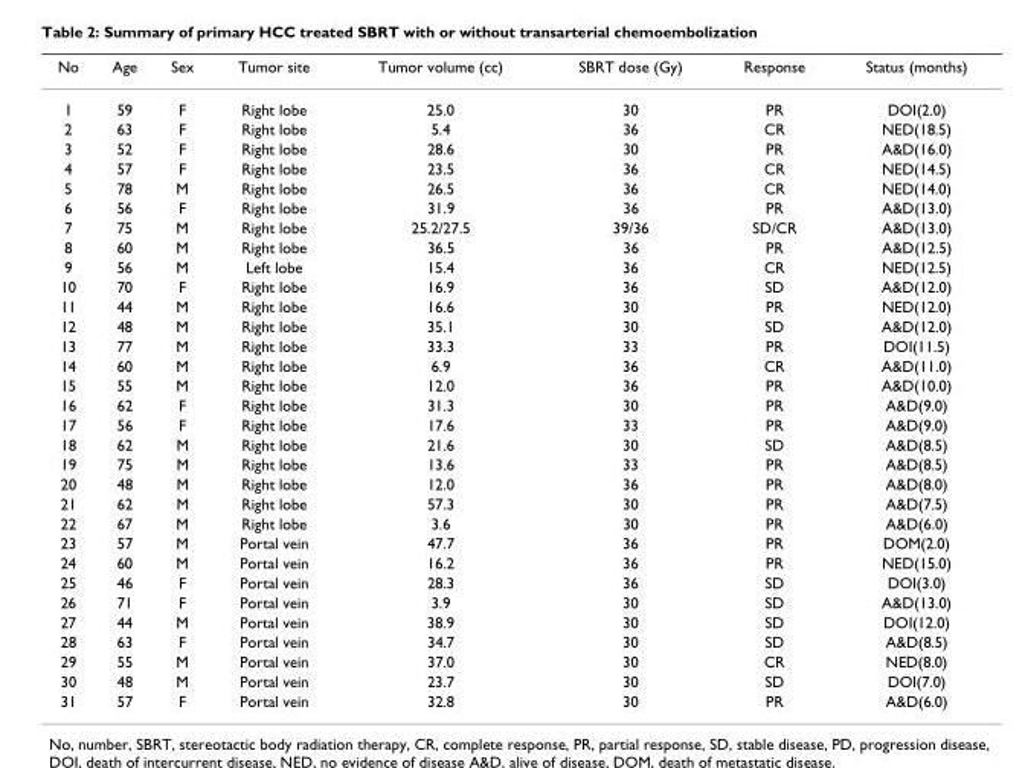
<table><thead><tr><td>No</td><td>Age</td><td>Sex</td><td>Tumor site</td><td>Tumor volume (cc)</td><td>SBRT dose (Gy)</td><td>Response</td><td>Status (months)</td></tr></thead><tbody><tr><td>1</td><td>59</td><td>F</td><td>Right lobe</td><td>25.0</td><td>30</td><td>PR</td><td>DOI(2.0)</td></tr><tr><td>2</td><td>63</td><td>F</td><td>Right lobe</td><td>5.4</td><td>36</td><td>CR</td><td>NED(18.5)</td></tr><tr><td>3</td><td>52</td><td>F</td><td>Right lobe</td><td>28.6</td><td>30</td><td>PR</td><td>A&amp;D(16.0)</td></tr><tr><td>4</td><td>57</td><td>F</td><td>Right lobe</td><td>23.5</td><td>36</td><td>CR</td><td>NED(14.5)</td></tr><tr><td>5</td><td>78</td><td>M</td><td>Right lobe</td><td>26.5</td><td>36</td><td>CR</td><td>NED(14.0)</td></tr><tr><td>6</td><td>56</td><td>F</td><td>Right lobe</td><td>31.9</td><td>36</td><td>PR</td><td>A&amp;D(13.0)</td></tr><tr><td>7</td><td>75</td><td>M</td><td>Right lobe</td><td>25.2/27.5</td><td>39/36</td><td>SD/CR</td><td>A&amp;D(13.0)</td></tr><tr><td>8</td><td>60</td><td>M</td><td>Right lobe</td><td>36.5</td><td>36</td><td>PR</td><td>A&amp;D(12.5)</td></tr><tr><td>9</td><td>56</td><td>M</td><td>Left lobe</td><td>15.4</td><td>36</td><td>CR</td><td>NED(12.5)</td></tr><tr><td>10</td><td>70</td><td>F</td><td>Right lobe</td><td>16.9</td><td>36</td><td>SD</td><td>A&amp;D(12.0)</td></tr><tr><td>11</td><td>44</td><td>M</td><td>Right lobe</td><td>16.6</td><td>30</td><td>PR</td><td>NED(12.0)</td></tr><tr><td>12</td><td>48</td><td>M</td><td>Right lobe</td><td>35.1</td><td>30</td><td>SD</td><td>A&amp;D(12.0)</td></tr><tr><td>13</td><td>77</td><td>M</td><td>Right lobe</td><td>33.3</td><td>33</td><td>PR</td><td>DOI(11.5)</td></tr><tr><td>14</td><td>60</td><td>M</td><td>Right lobe</td><td>6.9</td><td>36</td><td>CR</td><td>A&amp;D(11.0)</td></tr><tr><td>15</td><td>55</td><td>M</td><td>Right lobe</td><td>12.0</td><td>36</td><td>PR</td><td>A&amp;D(10.0)</td></tr><tr><td>16</td><td>62</td><td>F</td><td>Right lobe</td><td>31.3</td><td>30</td><td>PR</td><td>A&amp;D(9.0)</td></tr><tr><td>17</td><td>56</td><td>F</td><td>Right lobe</td><td>17.6</td><td>33</td><td>PR</td><td>A&amp;D(9.0)</td></tr><tr><td>18</td><td>62</td><td>M</td><td>Right lobe</td><td>21.6</td><td>30</td><td>SD</td><td>A&amp;D(8.5)</td></tr><tr><td>19</td><td>75</td><td>M</td><td>Right lobe</td><td>13.6</td><td>33</td><td>PR</td><td>A&amp;D(8.5)</td></tr><tr><td>20</td><td>48</td><td>M</td><td>Right lobe</td><td>12.0</td><td>36</td><td>PR</td><td>A&amp;D(8.0)</td></tr><tr><td>21</td><td>62</td><td>M</td><td>Right lobe</td><td>57.3</td><td>30</td><td>PR</td><td>A&amp;D(7.5)</td></tr><tr><td>22</td><td>67</td><td>M</td><td>Right lobe</td><td>3.6</td><td>30</td><td>PR</td><td>A&amp;D(6.0)</td></tr><tr><td>23</td><td>57</td><td>M</td><td>Portal vein</td><td>47.7</td><td>36</td><td>PR</td><td>DOM(2.0)</td></tr><tr><td>24</td><td>60</td><td>M</td><td>Portal vein</td><td>16.2</td><td>36</td><td>PR</td><td>NED(15.0)</td></tr><tr><td>25</td><td>46</td><td>F</td><td>Portal vein</td><td>28.3</td><td>36</td><td>SD</td><td>DOI(3.0)</td></tr><tr><td>26</td><td>71</td><td>F</td><td>Portal vein</td><td>3.9</td><td>30</td><td>SD</td><td>A&amp;D(13.0)</td></tr><tr><td>27</td><td>44</td><td>M</td><td>Portal vein</td><td>38.9</td><td>30</td><td>SD</td><td>DOI(12.0)</td></tr><tr><td>28</td><td>63</td><td>F</td><td>Portal vein</td><td>34.7</td><td>30</td><td>SD</td><td>A&amp;D(8.5)</td></tr><tr><td>29</td><td>55</td><td>M</td><td>Portal vein</td><td>37.0</td><td>30</td><td>CR</td><td>NED(8.0)</td></tr><tr><td>30</td><td>48</td><td>M</td><td>Portal vein</td><td>23.7</td><td>30</td><td>SD</td><td>DOI(7.0)</td></tr><tr><td>31</td><td>57</td><td>F</td><td>Portal vein</td><td>32.8</td><td>30</td><td>PR</td><td>A&amp;D(6.0)</td></tr></tbody></table>